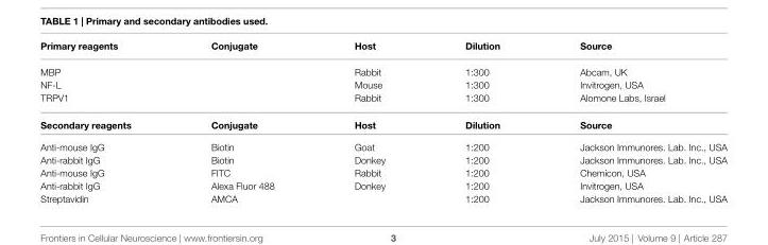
<table><thead><tr><td>Primary reagents</td><td>Conjugate</td><td>Host</td><td>Dilution</td><td>Source</td></tr></thead><tbody><tr><td>MBP</td><td></td><td>Rabbit</td><td>1:300</td><td>Abcam, UK</td></tr><tr><td>NF-L</td><td></td><td>Mouse</td><td>1:300</td><td>Invitrogen, USA</td></tr><tr><td>TRPV1</td><td></td><td>Rabbit</td><td>1:300</td><td>Alomone Labs, Israel</td></tr><tr><td>Secondary reagents</td><td>Conjugate</td><td>Host</td><td>Dilution</td><td>Source</td></tr><tr><td>Anti-mouse IgG</td><td>Biotin</td><td>Goat</td><td>1:200</td><td>Jackson Immunores. Lab. Inc., USA</td></tr><tr><td>Anti-rabbit IgG</td><td>Biotin</td><td>Donkey</td><td>1:200</td><td>Jackson Immunores. Lab. Inc., USA</td></tr><tr><td>Anti-mouse IgG</td><td>FITC</td><td>Rabbit</td><td>1:200</td><td>Chemicon, USA</td></tr><tr><td>Anti-rabbit IgG</td><td>Alexa Fluor 488</td><td>Donkey</td><td>1:200</td><td>Invitrogen, USA</td></tr><tr><td>Streptavidin</td><td>AMCA</td><td></td><td>1:200</td><td>Jackson Immunores. Lab. Inc., USA</td></tr></tbody></table>